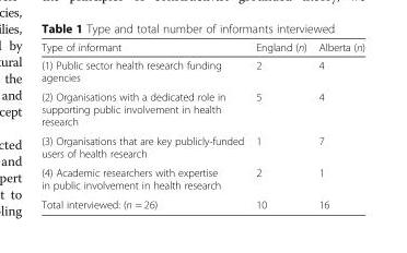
<table><thead><tr><td>Type of informant</td><td>England (n)</td><td>Alberta (n)</td></tr></thead><tbody><tr><td>(1) Public sector health research funding agencies</td><td>2</td><td>4</td></tr><tr><td>(2) Organisations with a dedicated role in supporting public involvement in health research</td><td>5</td><td>4</td></tr><tr><td>(3) Organisations that are key publicly-funded users of health research</td><td>1</td><td>7</td></tr><tr><td>(4) Academic researchers with expertise in public involvement in health research</td><td>2</td><td>1</td></tr><tr><td>Total interviewed: (n = 26)</td><td>10</td><td>16</td></tr></tbody></table>